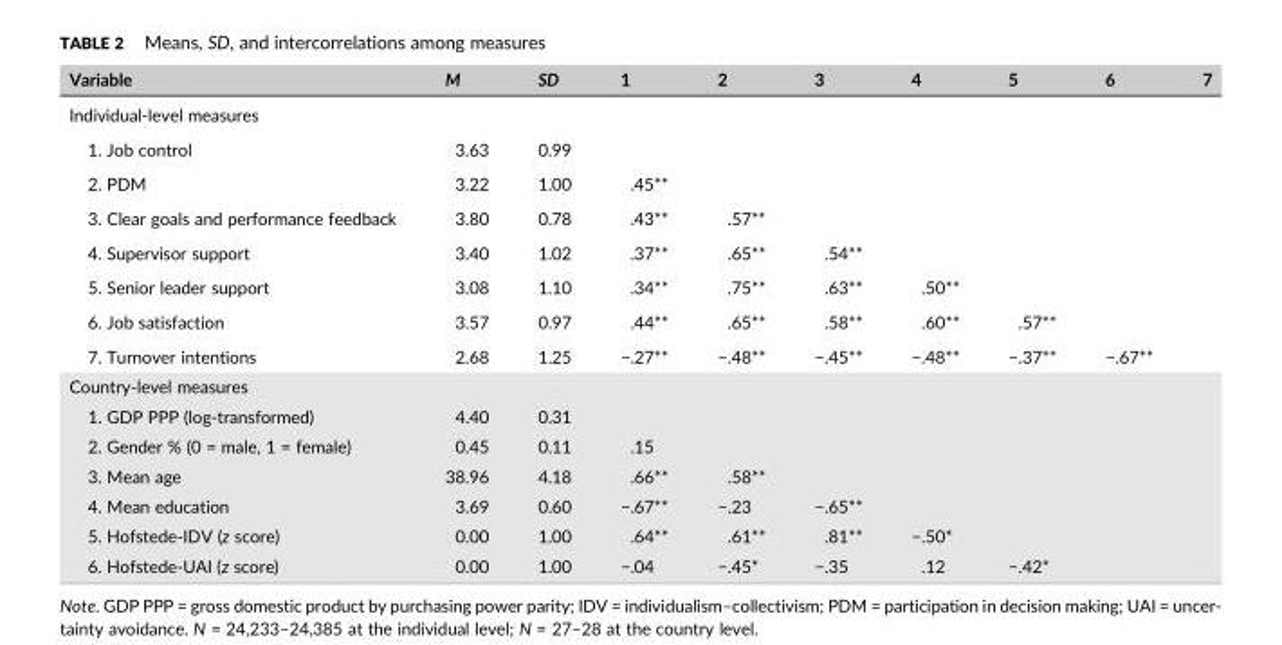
<table><thead><tr><td>Variable</td><td>M</td><td>SD</td><td>1</td><td>2</td><td>3</td><td>4</td><td>5</td><td>6</td><td>7</td></tr></thead><tbody><tr><td colspan="10">Individual‐level measures</td></tr><tr><td>1. Job control</td><td>3.63</td><td>0.99</td><td></td><td></td><td></td><td></td><td></td><td></td><td></td></tr><tr><td>2. PDM</td><td>3.22</td><td>1.00</td><td>.45**</td><td></td><td></td><td></td><td></td><td></td><td></td></tr><tr><td>3. Clear goals and performance feedback</td><td>3.80</td><td>0.78</td><td>.43**</td><td>.57**</td><td></td><td></td><td></td><td></td><td></td></tr><tr><td>4. Supervisor support</td><td>3.40</td><td>1.02</td><td>.37**</td><td>.65**</td><td>.54**</td><td></td><td></td><td></td><td></td></tr><tr><td>5. Senior leader support</td><td>3.08</td><td>1.10</td><td>.34**</td><td>.75**</td><td>.63**</td><td>.50**</td><td></td><td></td><td></td></tr><tr><td>6. Job satisfaction</td><td>3.57</td><td>0.97</td><td>.44**</td><td>.65**</td><td>.58**</td><td>.60**</td><td>.57**</td><td></td><td></td></tr><tr><td>7. Turnover intentions</td><td>2.68</td><td>1.25</td><td>−.27**</td><td>−.48**</td><td>−.45**</td><td>−.48**</td><td>−.37**</td><td>−.67**</td><td></td></tr><tr><td colspan="10">Country‐level measures</td></tr><tr><td>1. GDP PPP (log‐transformed)</td><td>4.40</td><td>0.31</td><td></td><td></td><td></td><td></td><td></td><td></td><td></td></tr><tr><td>2. Gender % (0 = male, 1 = female)</td><td>0.45</td><td>0.11</td><td>.15</td><td></td><td></td><td></td><td></td><td></td><td></td></tr><tr><td>3. Mean age</td><td>38.96</td><td>4.18</td><td>.66**</td><td>.58**</td><td></td><td></td><td></td><td></td><td></td></tr><tr><td>4. Mean education</td><td>3.69</td><td>0.60</td><td>−.67**</td><td>−.23</td><td>−.65**</td><td></td><td></td><td></td><td></td></tr><tr><td>5. Hofstede‐IDV (z score)</td><td>0.00</td><td>1.00</td><td>.64**</td><td>.61**</td><td>.81**</td><td>−.50*</td><td></td><td></td><td></td></tr><tr><td>6. Hofstede‐UAI (z score)</td><td>0.00</td><td>1.00</td><td>−.04</td><td>−.45*</td><td>−.35</td><td>.12</td><td>−.42*</td><td></td><td></td></tr></tbody></table>